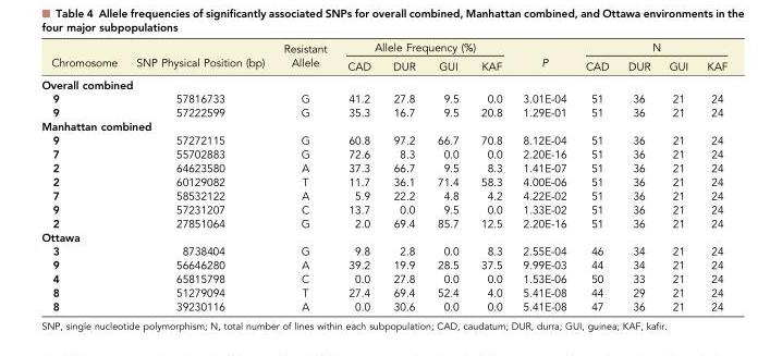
<table><thead><tr><td rowspan="2">Chromosome</td><td rowspan="2">SNP Physical Position (bp)</td><td rowspan="2">Resistant Allele</td><td colspan="4">Allele Frequency (%)</td><td rowspan="2">P</td><td colspan="4">N</td></tr><tr><td>CAD</td><td>DUR</td><td>GUI</td><td>KAF</td><td>CAD</td><td>DUR</td><td>GUI</td><td>KAF</td></tr></thead><tbody><tr><td colspan="12">Overall combined</td></tr><tr><td>9</td><td>57816733</td><td>G</td><td>41.2</td><td>27.8</td><td>9.5</td><td>0.0</td><td>3.01E-04</td><td>51</td><td>36</td><td>21</td><td>24</td></tr><tr><td>9</td><td>57222599</td><td>G</td><td>35.3</td><td>16.7</td><td>9.5</td><td>20.8</td><td>1.29E-01</td><td>51</td><td>36</td><td>21</td><td>24</td></tr><tr><td colspan="12">Manhattan combined</td></tr><tr><td>9</td><td>57272115</td><td>G</td><td>60.8</td><td>97.2</td><td>66.7</td><td>70.8</td><td>8.12E-04</td><td>51</td><td>36</td><td>21</td><td>24</td></tr><tr><td>7</td><td>55702883</td><td>G</td><td>72.6</td><td>8.3</td><td>0.0</td><td>0.0</td><td>2.20E-16</td><td>51</td><td>36</td><td>21</td><td>24</td></tr><tr><td>2</td><td>64623580</td><td>A</td><td>37.3</td><td>66.7</td><td>9.5</td><td>8.3</td><td>1.41E-07</td><td>51</td><td>36</td><td>21</td><td>24</td></tr><tr><td>2</td><td>60129082</td><td>T</td><td>11.7</td><td>36.1</td><td>71.4</td><td>58.3</td><td>4.00E-06</td><td>51</td><td>36</td><td>21</td><td>24</td></tr><tr><td>7</td><td>58532122</td><td>A</td><td>5.9</td><td>22.2</td><td>4.8</td><td>4.2</td><td>4.22E-02</td><td>51</td><td>36</td><td>21</td><td>24</td></tr><tr><td>9</td><td>57231207</td><td>C</td><td>13.7</td><td>0.0</td><td>9.5</td><td>0.0</td><td>1.33E-02</td><td>51</td><td>36</td><td>21</td><td>24</td></tr><tr><td>2</td><td>27851064</td><td>G</td><td>2.0</td><td>69.4</td><td>85.7</td><td>12.5</td><td>2.20E-16</td><td>51</td><td>36</td><td>21</td><td>24</td></tr><tr><td colspan="12">Ottawa</td></tr><tr><td>3</td><td>8738404</td><td>G</td><td>9.8</td><td>2.8</td><td>0.0</td><td>8.3</td><td>2.55E-04</td><td>46</td><td>34</td><td>21</td><td>24</td></tr><tr><td>9</td><td>56646280</td><td>A</td><td>39.2</td><td>19.9</td><td>28.5</td><td>37.5</td><td>9.99E-03</td><td>44</td><td>34</td><td>21</td><td>24</td></tr><tr><td>4</td><td>65815798</td><td>C</td><td>0.0</td><td>27.8</td><td>0.0</td><td>0.0</td><td>1.53E-06</td><td>50</td><td>33</td><td>21</td><td>24</td></tr><tr><td>8</td><td>51279094</td><td>T</td><td>27.4</td><td>69.4</td><td>52.4</td><td>4.0</td><td>5.41E-08</td><td>44</td><td>29</td><td>21</td><td>24</td></tr><tr><td>8</td><td>39230116</td><td>A</td><td>0.0</td><td>30.6</td><td>0.0</td><td>0.0</td><td>5.41E-08</td><td>47</td><td>36</td><td>21</td><td>24</td></tr></tbody></table>